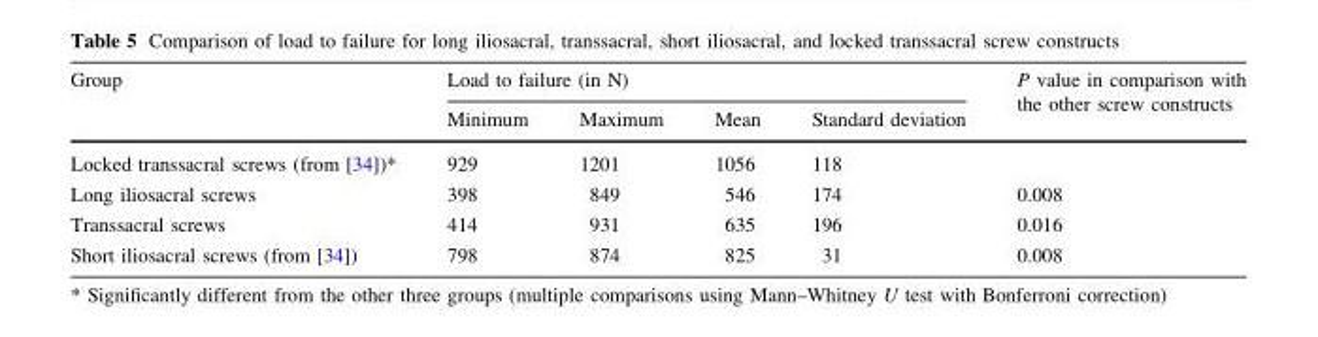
<table><thead><tr><td rowspan="2">Group</td><td colspan="4">Load to failure (in N)</td><td rowspan="2">P value in comparison with the other screw constructs</td></tr><tr><td>Minimum</td><td>Maximum</td><td>Mean</td><td>Standard deviation</td></tr></thead><tbody><tr><td>Locked transsacral screws (from [34])*</td><td>929</td><td>1201</td><td>1056</td><td>118</td><td></td></tr><tr><td>Long iliosacral screws</td><td>398</td><td>849</td><td>546</td><td>174</td><td>0.008</td></tr><tr><td>Transsacral screws</td><td>414</td><td>931</td><td>635</td><td>196</td><td>0.016</td></tr><tr><td>Short iliosacral screws (from [34])</td><td>798</td><td>874</td><td>825</td><td>31</td><td>0.008</td></tr></tbody></table>